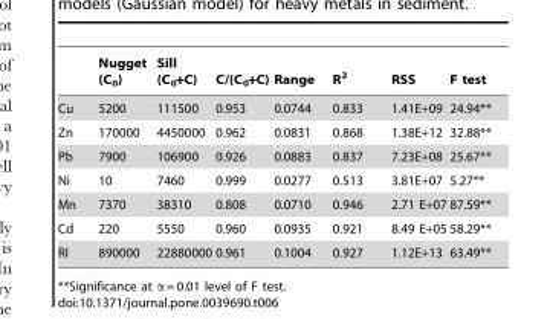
<table><thead><tr><td></td><td>Nugget (C<sub>0</sub>)</td><td>Sill (C<sub>0</sub>+C)</td><td>C/(C<sub>0</sub>+C)</td><td>Range</td><td>R<sup>2</sup></td><td>RSS</td><td>F test</td></tr></thead><tbody><tr><td>Cu</td><td>5200</td><td>111500</td><td>0.953</td><td>0.0744</td><td>0.833</td><td>1.41E+09</td><td>24.94**</td></tr><tr><td>Zn</td><td>170000</td><td>4450000</td><td>0.962</td><td>0.0831</td><td>0.868</td><td>1.38E+12</td><td>32.88**</td></tr><tr><td>Pb</td><td>7900</td><td>106900</td><td>0.926</td><td>0.0883</td><td>0.837</td><td>7.23E+08</td><td>25.67**</td></tr><tr><td>Ni</td><td>10</td><td>7460</td><td>0.999</td><td>0.0277</td><td>0.513</td><td>3.81E+07</td><td>5.27**</td></tr><tr><td>Mn</td><td>7370</td><td>38310</td><td>0.808</td><td>0.0710</td><td>0.946</td><td>2.71 E+07</td><td>87.59**</td></tr><tr><td>Cd</td><td>220</td><td>5550</td><td>0.960</td><td>0.0935</td><td>0.921</td><td>8.49 E+05</td><td>58.29**</td></tr><tr><td>RI</td><td>890000</td><td>22880000</td><td>0.961</td><td>0.1004</td><td>0.927</td><td>1.12E+13</td><td>63.49**</td></tr></tbody></table>